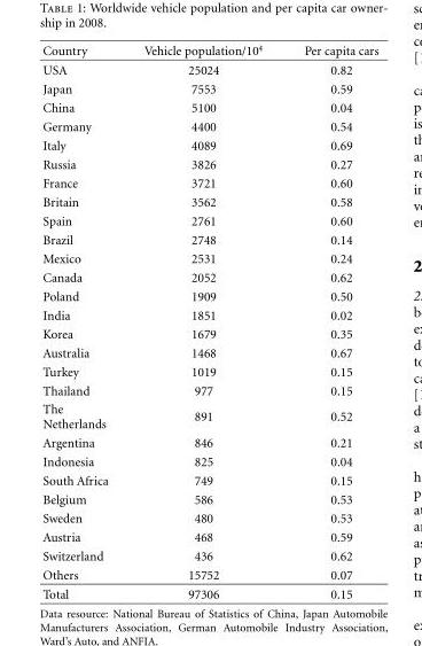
<table><thead><tr><td>Country</td><td>Vehicle population/10<sup>4</sup></td><td>Per capita cars</td></tr></thead><tbody><tr><td>USA</td><td>25024</td><td>0.82</td></tr><tr><td>Japan</td><td>7553</td><td>0.59</td></tr><tr><td>China</td><td>5100</td><td>0.04</td></tr><tr><td>Germany</td><td>4400</td><td>0.54</td></tr><tr><td>Italy</td><td>4089</td><td>0.69</td></tr><tr><td>Russia</td><td>3826</td><td>0.27</td></tr><tr><td>France</td><td>3721</td><td>0.60</td></tr><tr><td>Britain</td><td>3562</td><td>0.58</td></tr><tr><td>Spain</td><td>2761</td><td>0.60</td></tr><tr><td>Brazil</td><td>2748</td><td>0.14</td></tr><tr><td>Mexico</td><td>2531</td><td>0.24</td></tr><tr><td>Canada</td><td>2052</td><td>0.62</td></tr><tr><td>Poland</td><td>1909</td><td>0.50</td></tr><tr><td>India</td><td>1851</td><td>0.02</td></tr><tr><td>Korea</td><td>1679</td><td>0.35</td></tr><tr><td>Australia</td><td>1468</td><td>0.67</td></tr><tr><td>Turkey</td><td>1019</td><td>0.15</td></tr><tr><td>Thailand</td><td>977</td><td>0.15</td></tr><tr><td>The Netherlands</td><td>891</td><td>0.52</td></tr><tr><td>Argentina</td><td>846</td><td>0.21</td></tr><tr><td>Indonesia</td><td>825</td><td>0.04</td></tr><tr><td>South Africa</td><td>749</td><td>0.15</td></tr><tr><td>Belgium</td><td>586</td><td>0.53</td></tr><tr><td>Sweden</td><td>480</td><td>0.53</td></tr><tr><td>Austria</td><td>468</td><td>0.59</td></tr><tr><td>Switzerland</td><td>436</td><td>0.62</td></tr><tr><td>Others</td><td>15752</td><td>0.07</td></tr><tr><td>Total</td><td>97306</td><td>0.15</td></tr></tbody></table>